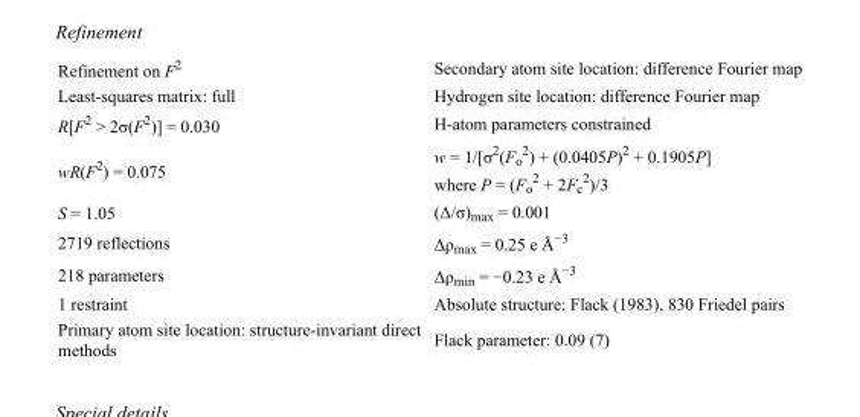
<table><tbody><tr><td>Refinement on F<sup>2</sup></td><td>Secondary atom site location: difference Fourier map</td></tr><tr><td>Least-squares matrix: full</td><td>Hydrogen site location: difference Fourier map</td></tr><tr><td>R[F<sup>2</sup> &gt; 2σ(F<sup>2</sup>)] = 0.030</td><td>H-atom parameters constrained</td></tr><tr><td>wR(F<sup>2</sup>) = 0.075</td><td>w = 1/[σ<sup>2</sup>(F<sub>o</sub> <sup>2</sup>) + (0.0405P)<sup>2</sup> + 0.1905P] where P = (F<sub>o</sub> <sup>2</sup> + 2F<sub>c</sub> <sup>2</sup>)/3</td></tr><tr><td>S = 1.05</td><td>(Δ/σ)<sub>max</sub> = 0.001</td></tr><tr><td>2719 reflections</td><td>Δρ<sub>max</sub> = 0.25 e Å<sup>−3</sup></td></tr><tr><td>218 parameters</td><td>Δρ<sub>min</sub> = −0.23 e Å<sup>−3</sup></td></tr><tr><td>1 restraint</td><td>Absolute structure: Flack (1983), 830 Friedel pairs</td></tr><tr><td>Primary atom site location: structure-invariant direct methods</td><td>Flack parameter: 0.09 (7)</td></tr></tbody></table>